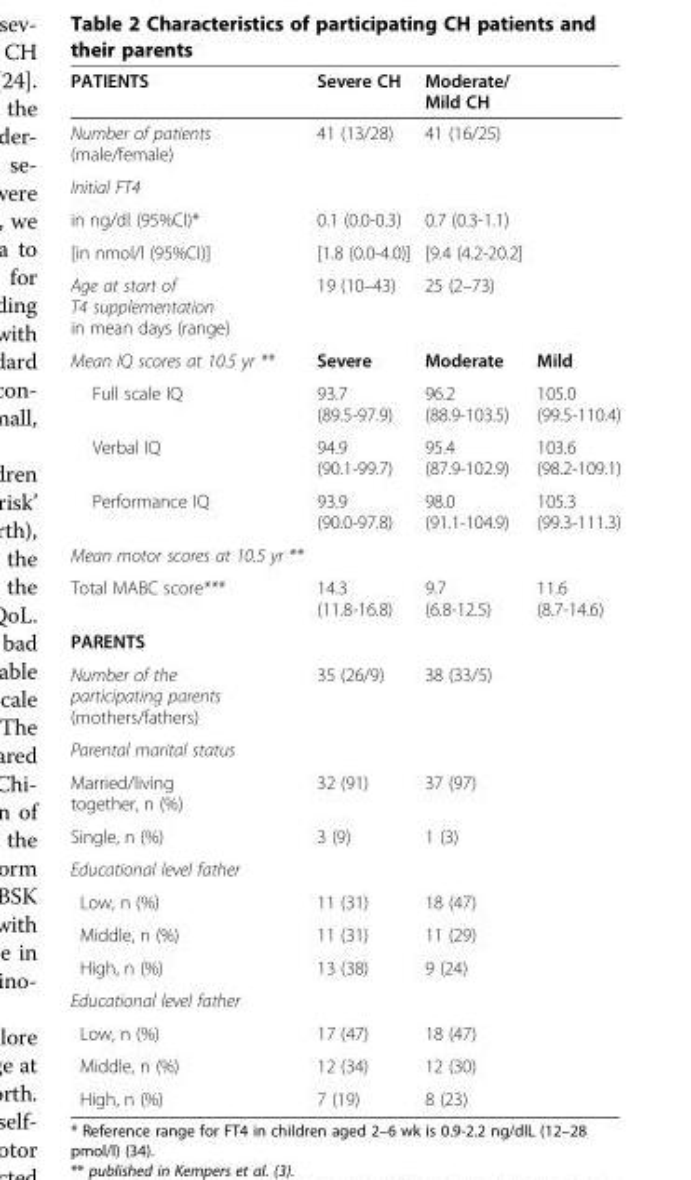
<table><thead><tr><td>PATIENTS</td><td>Severe CH</td><td>Moderate/ Mild CH</td><td></td></tr></thead><tbody><tr><td>Number of patients (male/female)</td><td>41 (13/28)</td><td>41 (16/25)</td><td></td></tr><tr><td colspan="4">Initial FT4</td></tr><tr><td>in ng/dl (95%CI)*</td><td>0.1 (0.0-0.3)</td><td>0.7 (0.3-1.1)</td><td></td></tr><tr><td>[in nmol/l (95%CI)]</td><td>[1.8 (0.0-4.0)]</td><td>[9.4 (4.2-20.2]</td><td></td></tr><tr><td>Age at start of T4 supplementation in mean days (range)</td><td>19 (10–43)</td><td>25 (2–73)</td><td></td></tr><tr><td>Mean IQ scores at 10.5 yr **</td><td>Severe</td><td>Moderate</td><td>Mild</td></tr><tr><td>Full scale IQ</td><td>93.7 (89.5-97.9)</td><td>96.2 (88.9-103.5)</td><td>105.0 (99.5-110.4)</td></tr><tr><td>Verbal IQ</td><td>94.9 (90.1-99.7)</td><td>95.4 (87.9-102.9)</td><td>103.6 (98.2-109.1)</td></tr><tr><td>Performance IQ</td><td>93.9 (90.0-97.8)</td><td>98.0 (91.1-104.9)</td><td>105.3 (99.3-111.3)</td></tr><tr><td colspan="4">Mean motor scores at 10.5 yr **</td></tr><tr><td>Total MABC score***</td><td>14.3 (11.8-16.8)</td><td>9.7 (6.8-12.5)</td><td>11.6 (8.7-14.6)</td></tr><tr><td colspan="4">PARENTS</td></tr><tr><td>Number of the participating parents (mothers/fathers)</td><td>35 (26/9)</td><td>38 (33/5)</td><td></td></tr><tr><td colspan="4">Parental marital status</td></tr><tr><td>Married/living together, n (%)</td><td>32 (91)</td><td>37 (97)</td><td></td></tr><tr><td>Single, n (%)</td><td>3 (9)</td><td>1 (3)</td><td></td></tr><tr><td colspan="4">Educational level father</td></tr><tr><td>Low, n (%)</td><td>11 (31)</td><td>18 (47)</td><td></td></tr><tr><td>Middle, n (%)</td><td>11 (31)</td><td>11 (29)</td><td></td></tr><tr><td>High, n (%)</td><td>13 (38)</td><td>9 (24)</td><td></td></tr><tr><td colspan="4">Educational level father</td></tr><tr><td>Low, n (%)</td><td>17 (47)</td><td>18 (47)</td><td></td></tr><tr><td>Middle, n (%)</td><td>12 (34)</td><td>12 (30)</td><td></td></tr><tr><td>High, n (%)</td><td>7 (19)</td><td>8 (23)</td><td></td></tr></tbody></table>